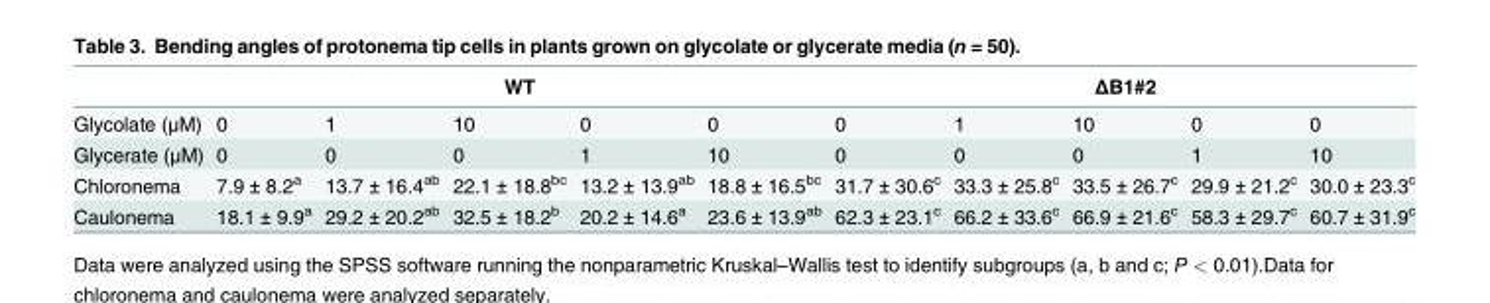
<table><thead><tr><td rowspan="2">Glycolate (μM)</td><td colspan="5">WT</td><td colspan="5">ΔB1#2</td></tr><tr><td>0</td><td>1</td><td>10</td><td>0</td><td>0</td><td>0</td><td>1</td><td>10</td><td>0</td><td>0</td></tr></thead><tbody><tr><td>Glycerate (μM)</td><td>0</td><td>0</td><td>0</td><td>1</td><td>10</td><td>0</td><td>0</td><td>0</td><td>1</td><td>10</td></tr><tr><td>Chloronema</td><td>7.9 ± 8.2<sup>a</sup></td><td>13.7 ± 16.4<sup>ab</sup></td><td>22.1 ± 18.8<sup>bc</sup></td><td>13.2 ± 13.9<sup>ab</sup></td><td>18.8 ± 16.5<sup>bc</sup></td><td>31.7 ± 30.6<sup>c</sup></td><td>33.3 ± 25.8<sup>c</sup></td><td>33.5 ± 26.7<sup>c</sup></td><td>29.9 ± 21.2<sup>c</sup></td><td>30.0 ± 23.3<sup>c</sup></td></tr><tr><td>Caulonema</td><td>18.1 ± 9.9<sup>a</sup></td><td>29.2 ± 20.2<sup>ab</sup></td><td>32.5 ± 18.2<sup>b</sup></td><td>20.2 ± 14.6<sup>a</sup></td><td>23.6 ± 13.9<sup>ab</sup></td><td>62.3 ± 23.1<sup>c</sup></td><td>66.2 ± 33.6<sup>c</sup></td><td>66.9 ± 21.6<sup>c</sup></td><td>58.3 ± 29.7<sup>c</sup></td><td>60.7 ± 31.9<sup>c</sup></td></tr></tbody></table>